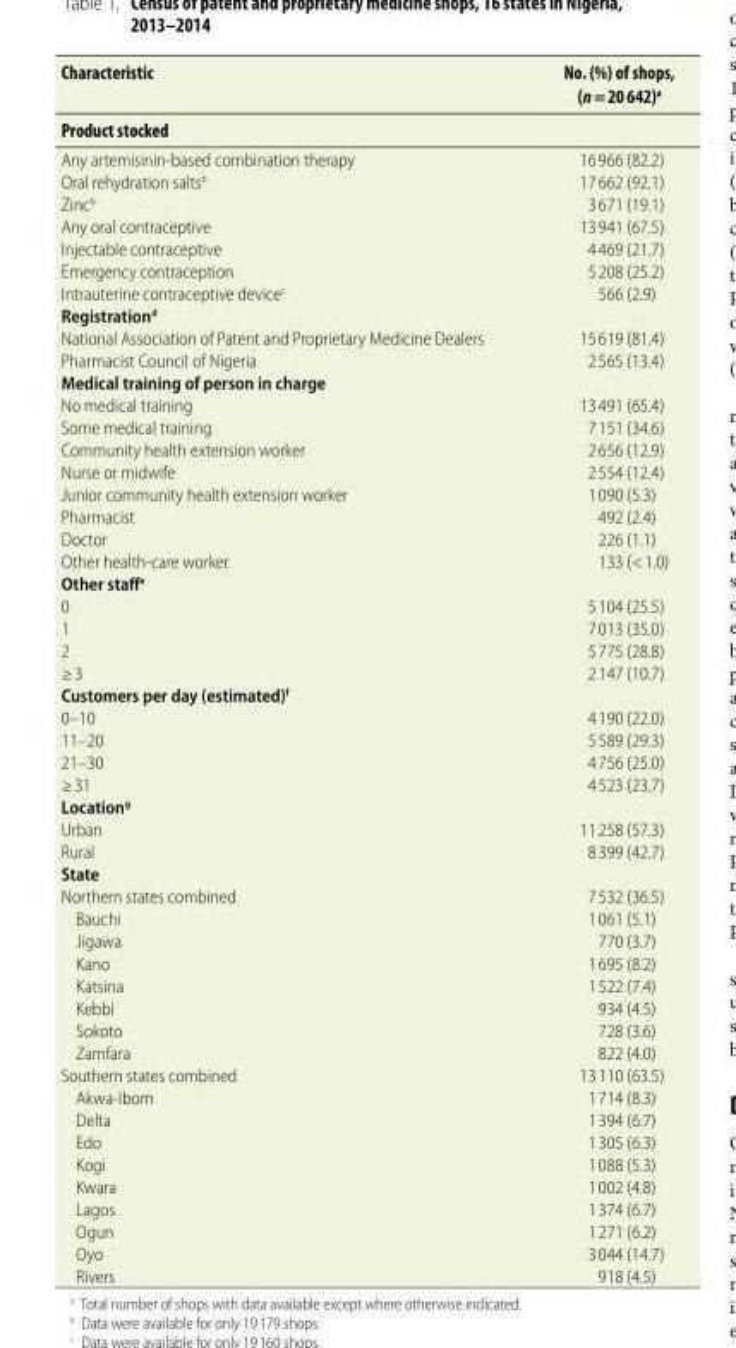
<table><thead><tr><td rowspan="2">Characteristic Product stocked</td><td rowspan="2">No. (%) of shops, (n = 20 642)<sup>a</sup></td></tr><tr></tr></thead><tbody><tr><td>Any artemisinin-based combination therapy</td><td>16 966 (82.2)</td></tr><tr><td>Oral rehydration salts<sup>b</sup></td><td>17 662 (92.1)</td></tr><tr><td>Zinc<sup>b</sup></td><td>3 671 (19.1)</td></tr><tr><td>Any oral contraceptive</td><td>13 941 (67.5)</td></tr><tr><td>Injectable contraceptive</td><td>4 469 (21.7)</td></tr><tr><td>Emergency contraception</td><td>5 208 (25.2)</td></tr><tr><td>Intrauterine contraceptive device<sup>c</sup></td><td>566 (2.9)</td></tr><tr><td colspan="2">Registration<sup>d</sup></td></tr><tr><td>National Association of Patent and Proprietary Medicine Dealers</td><td>15 619 (81.4)</td></tr><tr><td>Pharmacist Council of Nigeria</td><td>2 565 (13.4)</td></tr><tr><td colspan="2">Medical training of person in charge</td></tr><tr><td>No medical training</td><td>13 491 (65.4)</td></tr><tr><td>Some medical training</td><td>7 151 (34.6)</td></tr><tr><td>Community health extension worker</td><td>2 656 (12.9)</td></tr><tr><td>Nurse or midwife</td><td>2 554 (12.4)</td></tr><tr><td>Junior community health extension worker</td><td>1 090 (5.3)</td></tr><tr><td>Pharmacist</td><td>492 (2.4)</td></tr><tr><td>Doctor</td><td>226 (1.1)</td></tr><tr><td>Other health-care worker</td><td>133 (&lt; 1.0)</td></tr><tr><td colspan="2">Other staff<sup>e</sup></td></tr><tr><td>0</td><td>5 104 (25.5)</td></tr><tr><td>1</td><td>7 013 (35.0)</td></tr><tr><td>2</td><td>5 775 (28.8)</td></tr><tr><td>≥ 3</td><td>2 147 (10.7)</td></tr><tr><td colspan="2">Customers per day (estimated)<sup>f</sup></td></tr><tr><td>0–10</td><td>4 190 (22.0)</td></tr><tr><td>11–20</td><td>5 589 (29.3)</td></tr><tr><td>21–30</td><td>4 756 (25.0)</td></tr><tr><td>≥ 31</td><td>4 523 (23.7)</td></tr><tr><td colspan="2">Location<sup>g</sup></td></tr><tr><td>Urban</td><td>11 258 (57.3)</td></tr><tr><td>Rural</td><td>8 399 (42.7)</td></tr><tr><td colspan="2">State</td></tr><tr><td>Northern states combined</td><td>7 532 (36.5)</td></tr><tr><td>Bauchi</td><td>1 061 (5.1)</td></tr><tr><td>Jigawa</td><td>770 (3.7)</td></tr><tr><td>Kano</td><td>1 695 (8.2)</td></tr><tr><td>Katsina</td><td>1 522 (7.4)</td></tr><tr><td>Kebbi</td><td>934 (4.5)</td></tr><tr><td>Sokoto</td><td>728 (3.6)</td></tr><tr><td>Zamfara</td><td>822 (4.0)</td></tr><tr><td>Southern states combined</td><td>13 110 (63.5)</td></tr><tr><td>Akwa-Ibom</td><td>1 714 (8.3)</td></tr><tr><td>Delta</td><td>1 394 (6.7)</td></tr><tr><td>Edo</td><td>1 305 (6.3)</td></tr><tr><td>Kogi</td><td>1 088 (5.3)</td></tr><tr><td>Kwara</td><td>1 002 (4.8)</td></tr><tr><td>Lagos</td><td>1 374 (6.7)</td></tr><tr><td>Ogun</td><td>1 271 (6.2)</td></tr><tr><td>Oyo</td><td>3 044 (14.7)</td></tr><tr><td>Rivers</td><td>918 (4.5)</td></tr></tbody></table>